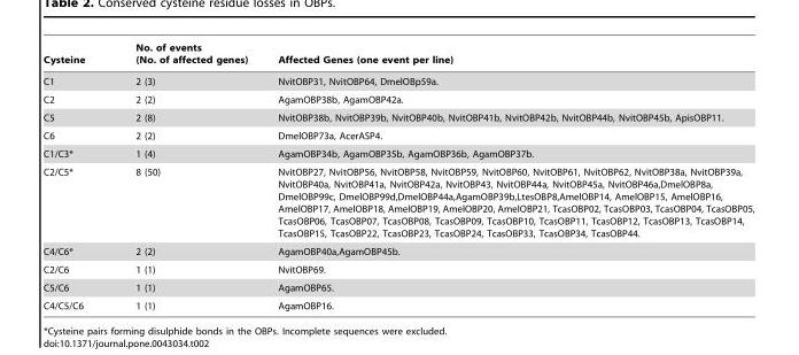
<table><thead><tr><td>Cysteine</td><td>No. of events (No. of affected genes)</td><td>Affected Genes (one event per line)</td></tr></thead><tbody><tr><td>C1</td><td>2 (3)</td><td>NvitOBP31, NvitOBP64, DmelOBp59a.</td></tr><tr><td>C2</td><td>2 (2)</td><td>AgamOBP38b, AgamOBP42a.</td></tr><tr><td>C5</td><td>2 (8)</td><td>NvitOBP38b, NvitOBP39b, NvitOBP40b, NvitOBP41b, NvitOBP42b, NvitOBP44b, NvitOBP45b, ApisOBP11.</td></tr><tr><td>C6</td><td>2 (2)</td><td>DmelOBP73a, AcerASP4.</td></tr><tr><td>C1/C3*</td><td>1 (4)</td><td>AgamOBP34b, AgamOBP35b, AgamOBP36b, AgamOBP37b.</td></tr><tr><td>C2/C5*</td><td>8 (50)</td><td>NvitOBP27, NvitOBP56, NvitOBP58, NvitOBP59, NvitOBP60, NvitOBP61, NvitOBP62, NvitOBP38a, NvitOBP39a, NvitOBP40a, NvitOBP41a, NvitOBP42a, NvitOBP43, NvitOBP44a, NvitOBP45a, NvitOBP46a,DmelOBP8a, DmelOBP99c, DmelOBP99d,DmelOBP44a,AgamOBP39b,LtesOBP8,AmelOBP14, AmelOBP15, AmelOBP16, AmelOBP17, AmelOBP18, AmelOBP19, AmelOBP20, AmelOBP21, TcasOBP02, TcasOBP03, TcasOBP04, TcasOBP05, TcasOBP06, TcasOBP07, TcasOBP08, TcasOBP09, TcasOBP10, TcasOBP11, TcasOBP12, TcasOBP13, TcasOBP14, TcasOBP15, TcasOBP22, TcasOBP23, TcasOBP24, TcasOBP33, TcasOBP34, TcasOBP44.</td></tr><tr><td>C4/C6*</td><td>2 (2)</td><td>AgamOBP40a,AgamOBP45b.</td></tr><tr><td>C2/C6</td><td>1 (1)</td><td>NvitOBP69.</td></tr><tr><td>C5/C6</td><td>1 (1)</td><td>AgamOBP65.</td></tr><tr><td>C4/C5/C6</td><td>1 (1)</td><td>AgamOBP16.</td></tr></tbody></table>